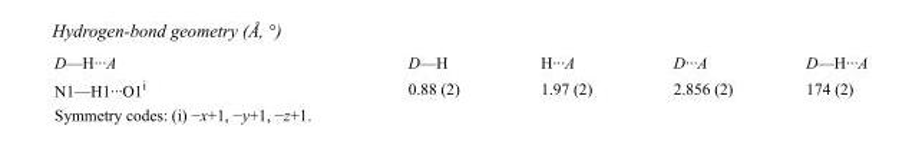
<table><tbody><tr><td>D—H···A</td><td>D—H</td><td>H···A</td><td>D···A</td><td>D—H···A</td></tr><tr><td>N1—H1···O1<sup>i</sup></td><td>0.88 (2)</td><td>1.97 (2)</td><td>2.856 (2)</td><td>174 (2)</td></tr></tbody></table>